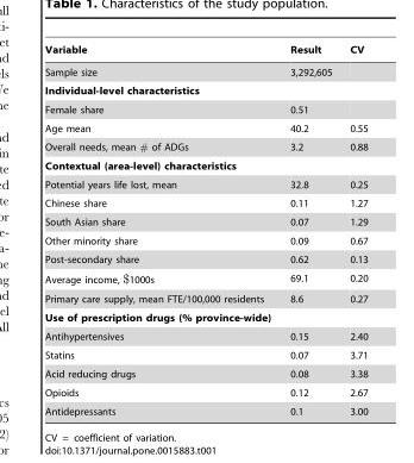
<table><thead><tr><td>Variable</td><td>Result</td><td>CV</td></tr></thead><tbody><tr><td>Sample size</td><td>3,292,605</td><td></td></tr><tr><td colspan="3">Individual-level characteristics</td></tr><tr><td>Female share</td><td>0.51</td><td></td></tr><tr><td>Age mean</td><td>40.2</td><td>0.55</td></tr><tr><td>Overall needs, mean # of ADGs</td><td>3.2</td><td>0.88</td></tr><tr><td colspan="3">Contextual (area-level) characteristics</td></tr><tr><td>Potential years life lost, mean</td><td>32.8</td><td>0.25</td></tr><tr><td>Chinese share</td><td>0.11</td><td>1.27</td></tr><tr><td>South Asian share</td><td>0.07</td><td>1.29</td></tr><tr><td>Other minority share</td><td>0.09</td><td>0.67</td></tr><tr><td>Post-secondary share</td><td>0.62</td><td>0.13</td></tr><tr><td>Average income, $1000s</td><td>69.1</td><td>0.20</td></tr><tr><td>Primary care supply, mean FTE/100,000 residents</td><td>8.6</td><td>0.27</td></tr><tr><td colspan="3">Use of prescription drugs (% province-wide)</td></tr><tr><td>Antihypertensives</td><td>0.15</td><td>2.40</td></tr><tr><td>Statins</td><td>0.07</td><td>3.71</td></tr><tr><td>Acid reducing drugs</td><td>0.08</td><td>3.38</td></tr><tr><td>Opioids</td><td>0.12</td><td>2.67</td></tr><tr><td>Antidepressants</td><td>0.1</td><td>3.00</td></tr></tbody></table>